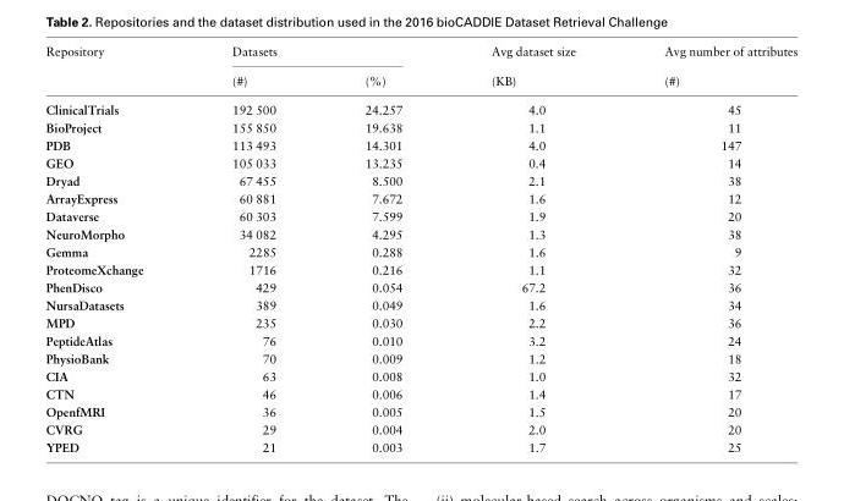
<table><thead><tr><td rowspan="2">Repository</td><td colspan="2">Datasets</td><td rowspan="2">Avg dataset size (KB)</td><td rowspan="2">Avg number of attributes (#)</td></tr><tr><td>(#)</td><td>(%)</td></tr></thead><tbody><tr><td>ClinicalTrials</td><td>192 500</td><td>24.257</td><td>4.0</td><td>45</td></tr><tr><td>BioProject</td><td>155 850</td><td>19.638</td><td>1.1</td><td>11</td></tr><tr><td>PDB</td><td>113 493</td><td>14.301</td><td>4.0</td><td>147</td></tr><tr><td>GEO</td><td>105 033</td><td>13.235</td><td>0.4</td><td>14</td></tr><tr><td>Dryad</td><td>67 455</td><td>8.500</td><td>2.1</td><td>38</td></tr><tr><td>ArrayExpress</td><td>60 881</td><td>7.672</td><td>1.6</td><td>12</td></tr><tr><td>Dataverse</td><td>60 303</td><td>7.599</td><td>1.9</td><td>20</td></tr><tr><td>NeuroMorpho</td><td>34 082</td><td>4.295</td><td>1.3</td><td>38</td></tr><tr><td>Gemma</td><td>2285</td><td>0.288</td><td>1.6</td><td>9</td></tr><tr><td>ProteomeXchange</td><td>1716</td><td>0.216</td><td>1.1</td><td>32</td></tr><tr><td>PhenDisco</td><td>429</td><td>0.054</td><td>67.2</td><td>36</td></tr><tr><td>NursaDatasets</td><td>389</td><td>0.049</td><td>1.6</td><td>34</td></tr><tr><td>MPD</td><td>235</td><td>0.030</td><td>2.2</td><td>36</td></tr><tr><td>PeptideAtlas</td><td>76</td><td>0.010</td><td>3.2</td><td>24</td></tr><tr><td>PhysioBank</td><td>70</td><td>0.009</td><td>1.2</td><td>18</td></tr><tr><td>CIA</td><td>63</td><td>0.008</td><td>1.0</td><td>32</td></tr><tr><td>CTN</td><td>46</td><td>0.006</td><td>1.4</td><td>17</td></tr><tr><td>OpenfMRI</td><td>36</td><td>0.005</td><td>1.5</td><td>20</td></tr><tr><td>CVRG</td><td>29</td><td>0.004</td><td>2.0</td><td>20</td></tr><tr><td>YPED</td><td>21</td><td>0.003</td><td>1.7</td><td>25</td></tr></tbody></table>